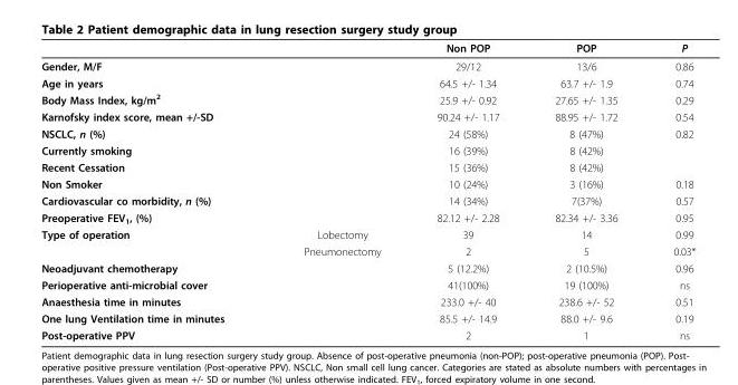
<table><thead><tr><td></td><td></td><td>Non POP</td><td>POP</td><td>P</td></tr></thead><tbody><tr><td>Gender, M/F</td><td></td><td>29/12</td><td>13/6</td><td>0.86</td></tr><tr><td>Age in years</td><td></td><td>64.5 +/- 1.34</td><td>63.7 +/- 1.9</td><td>0.74</td></tr><tr><td>Body Mass Index, kg/m<sup>2</sup></td><td></td><td>25.9 +/- 0.92</td><td>27.65 +/- 1.35</td><td>0.29</td></tr><tr><td>Karnofsky index score, mean +/-SD</td><td></td><td>90.24 +/- 1.17</td><td>88.95 +/- 1.72</td><td>0.54</td></tr><tr><td>NSCLC, n (%)</td><td></td><td>24 (58%)</td><td>8 (47%)</td><td>0.82</td></tr><tr><td>Currently smoking</td><td></td><td>16 (39%)</td><td>8 (42%)</td><td></td></tr><tr><td>Recent Cessation</td><td></td><td>15 (36%)</td><td>8 (42%)</td><td></td></tr><tr><td>Non Smoker</td><td></td><td>10 (24%)</td><td>3 (16%)</td><td>0.18</td></tr><tr><td>Cardiovascular co morbidity, n (%)</td><td></td><td>14 (34%)</td><td>7(37%)</td><td>0.57</td></tr><tr><td>Preoperative FEV<sub>1</sub>, (%)</td><td></td><td>82.12 +/- 2.28</td><td>82.34 +/- 3.36</td><td>0.95</td></tr><tr><td rowspan="2">Type of operation</td><td>Lobectomy</td><td>39</td><td>14</td><td>0.99</td></tr><tr><td>Pneumonectomy</td><td>2</td><td>5</td><td>0.03*</td></tr><tr><td>Neoadjuvant chemotherapy</td><td></td><td>5 (12.2%)</td><td>2 (10.5%)</td><td>0.96</td></tr><tr><td>Perioperative anti-microbial cover</td><td></td><td>41(100%)</td><td>19 (100%)</td><td>ns</td></tr><tr><td>Anaesthesia time in minutes</td><td></td><td>233.0 +/- 40</td><td>238.6 +/- 52</td><td>0.51</td></tr><tr><td>One lung Ventilation time in minutes</td><td></td><td>85.5 +/- 14.9</td><td>88.0 +/- 9.6</td><td>0.19</td></tr><tr><td>Post-operative PPV</td><td></td><td>2</td><td>1</td><td>ns</td></tr></tbody></table>